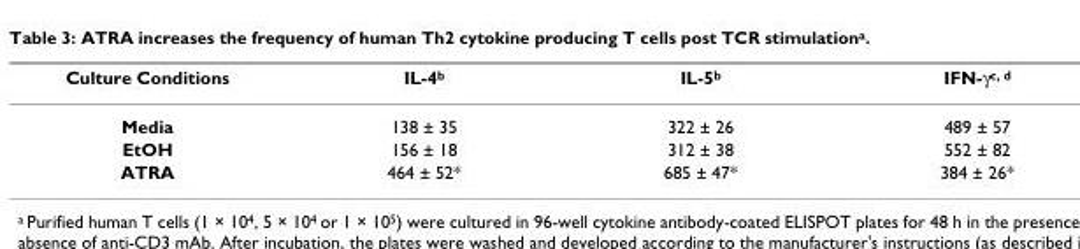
<table><thead><tr><td>Culture Conditions</td><td>IL-4<sup>b</sup></td><td>IL-5<sup>b</sup></td><td>IFN-γ<sup>c, d</sup></td></tr></thead><tbody><tr><td>Media</td><td>138 ± 35</td><td>322 ± 26</td><td>489 ± 57</td></tr><tr><td>EtOH</td><td>156 ± 18</td><td>312 ± 38</td><td>552 ± 82</td></tr><tr><td>ATRA</td><td>464 ± 52*</td><td>685 ± 47*</td><td>384 ± 26*</td></tr></tbody></table>